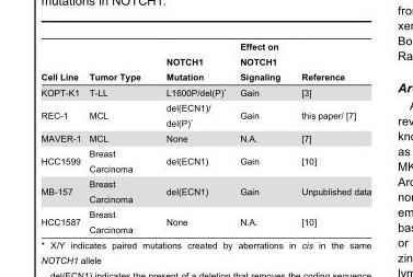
<table><thead><tr><td>Cell Line</td><td>Tumor Type</td><td>NOTCH1 Mutation</td><td>Effect on NOTCH1 Signaling</td><td>Reference</td></tr></thead><tbody><tr><td>KOPT-K1</td><td>T-LL</td><td>L1600P/del(P)*</td><td>Gain</td><td>[3]</td></tr><tr><td>REC-1</td><td>MCL</td><td>del(ECN1)/ del(P)*</td><td>Gain</td><td>this paper/ [7]</td></tr><tr><td>MAVER-1</td><td>MCL</td><td>None</td><td>N.A.</td><td>[7]</td></tr><tr><td>HCC1599</td><td>Breast Carcinoma</td><td>del(ECN1)</td><td>Gain</td><td>[10]</td></tr><tr><td>MB-157</td><td>Breast Carcinoma</td><td>del(ECN1)</td><td>Gain</td><td>Unpublished data</td></tr><tr><td>HCC1587</td><td>Breast Carcinoma</td><td>None</td><td>N.A.</td><td>[10]</td></tr></tbody></table>